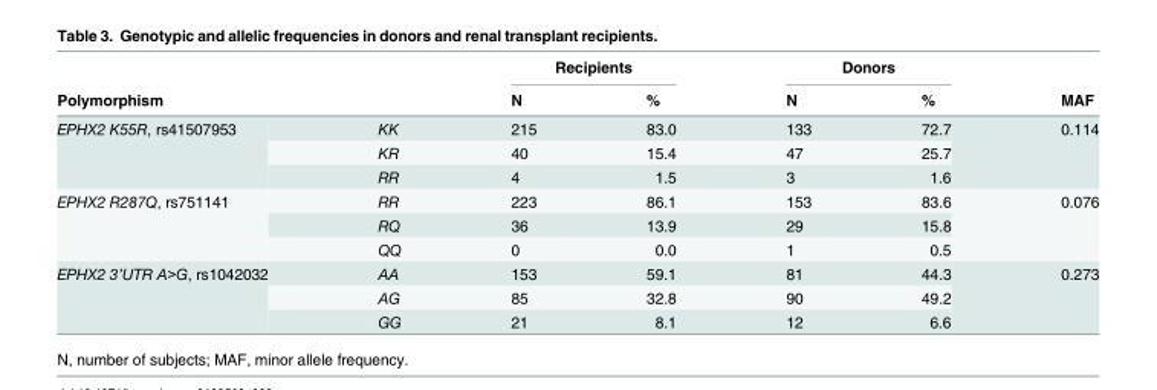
<table><thead><tr><td></td><td></td><td colspan="2">Recipients</td><td colspan="2">Donors</td><td rowspan="2">MAF</td></tr><tr><td colspan="2">Polymorphism</td><td>N</td><td>%</td><td>N</td><td>%</td></tr></thead><tbody><tr><td rowspan="3">EPHX2 K55R, rs41507953</td><td>KK</td><td>215</td><td>83.0</td><td>133</td><td>72.7</td><td rowspan="3">0.114</td></tr><tr><td>KR</td><td>40</td><td>15.4</td><td>47</td><td>25.7</td></tr><tr><td>RR</td><td>4</td><td>1.5</td><td>3</td><td>1.6</td></tr><tr><td rowspan="3">EPHX2 R287Q, rs751141</td><td>RR</td><td>223</td><td>86.1</td><td>153</td><td>83.6</td><td rowspan="3">0.076</td></tr><tr><td>RQ</td><td>36</td><td>13.9</td><td>29</td><td>15.8</td></tr><tr><td>QQ</td><td>0</td><td>0.0</td><td>1</td><td>0.5</td></tr><tr><td rowspan="3">EPHX2 3’UTR A&gt;G, rs1042032</td><td>AA</td><td>153</td><td>59.1</td><td>81</td><td>44.3</td><td rowspan="3">0.273</td></tr><tr><td>AG</td><td>85</td><td>32.8</td><td>90</td><td>49.2</td></tr><tr><td>GG</td><td>21</td><td>8.1</td><td>12</td><td>6.6</td></tr></tbody></table>